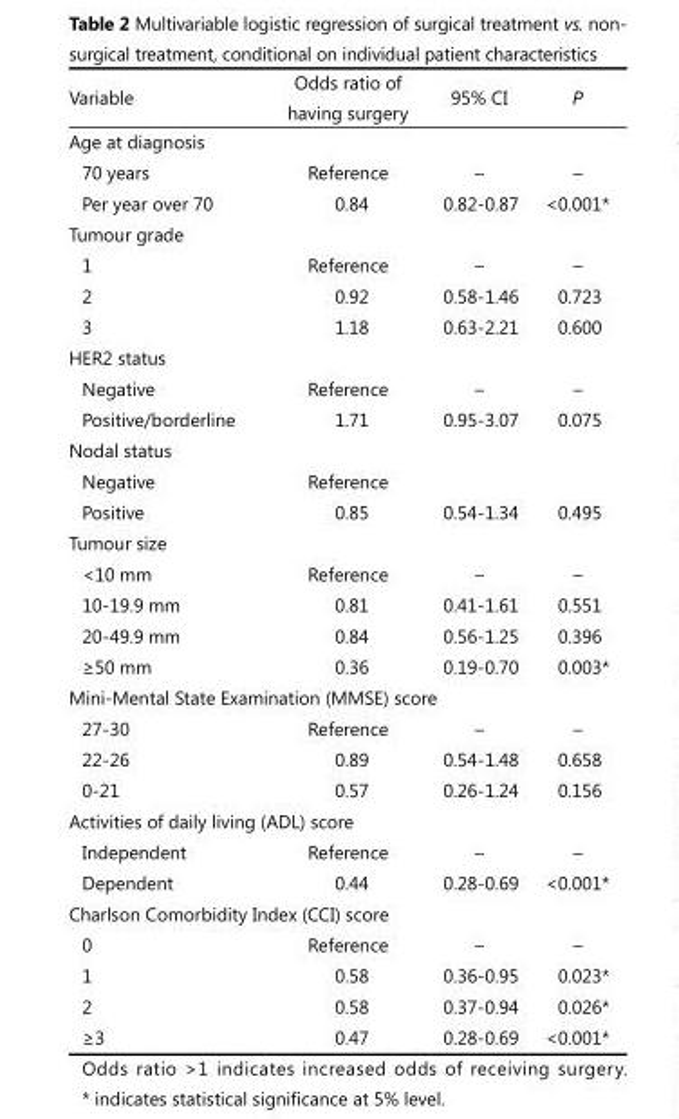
<table><thead><tr><td>Variable</td><td>Odds ratio of having surgery</td><td>95% CI</td><td>P</td></tr></thead><tbody><tr><td colspan="4">Age at diagnosis</td></tr><tr><td>70 years</td><td>Reference</td><td>–</td><td>–</td></tr><tr><td>Per year over 70</td><td>0.84</td><td>0.82-0.87</td><td>&lt;0.001*</td></tr><tr><td colspan="4">Tumour grade</td></tr><tr><td>1</td><td>Reference</td><td>–</td><td>–</td></tr><tr><td>2</td><td>0.92</td><td>0.58-1.46</td><td>0.723</td></tr><tr><td>3</td><td>1.18</td><td>0.63-2.21</td><td>0.600</td></tr><tr><td colspan="4">HER2 status</td></tr><tr><td>Negative</td><td>Reference</td><td>–</td><td>–</td></tr><tr><td>Positive/borderline</td><td>1.71</td><td>0.95-3.07</td><td>0.075</td></tr><tr><td colspan="4">Nodal status</td></tr><tr><td>Negative</td><td>Reference</td><td></td><td></td></tr><tr><td>Positive</td><td>0.85</td><td>0.54-1.34</td><td>0.495</td></tr><tr><td colspan="4">Tumour size</td></tr><tr><td>&lt;10 mm</td><td>Reference</td><td>–</td><td>–</td></tr><tr><td>10-19.9 mm</td><td>0.81</td><td>0.41-1.61</td><td>0.551</td></tr><tr><td>20-49.9 mm</td><td>0.84</td><td>0.56-1.25</td><td>0.396</td></tr><tr><td>≥50 mm</td><td>0.36</td><td>0.19-0.70</td><td>0.003*</td></tr><tr><td colspan="4">Mini-Mental State Examination (MMSE) score</td></tr><tr><td>27-30</td><td>Reference</td><td>–</td><td>–</td></tr><tr><td>22-26</td><td>0.89</td><td>0.54-1.48</td><td>0.658</td></tr><tr><td>0-21</td><td>0.57</td><td>0.26-1.24</td><td>0.156</td></tr><tr><td colspan="4">Activities of daily living (ADL) score</td></tr><tr><td>Independent</td><td>Reference</td><td>–</td><td>–</td></tr><tr><td>Dependent</td><td>0.44</td><td>0.28-0.69</td><td>&lt;0.001*</td></tr><tr><td colspan="4">Charlson Comorbidity Index (CCI) score</td></tr><tr><td>0</td><td>Reference</td><td>–</td><td>–</td></tr><tr><td>1</td><td>0.58</td><td>0.36-0.95</td><td>0.023*</td></tr><tr><td>2</td><td>0.58</td><td>0.37-0.94</td><td>0.026*</td></tr><tr><td>≥3</td><td>0.47</td><td>0.28-0.69</td><td>&lt;0.001*</td></tr></tbody></table>